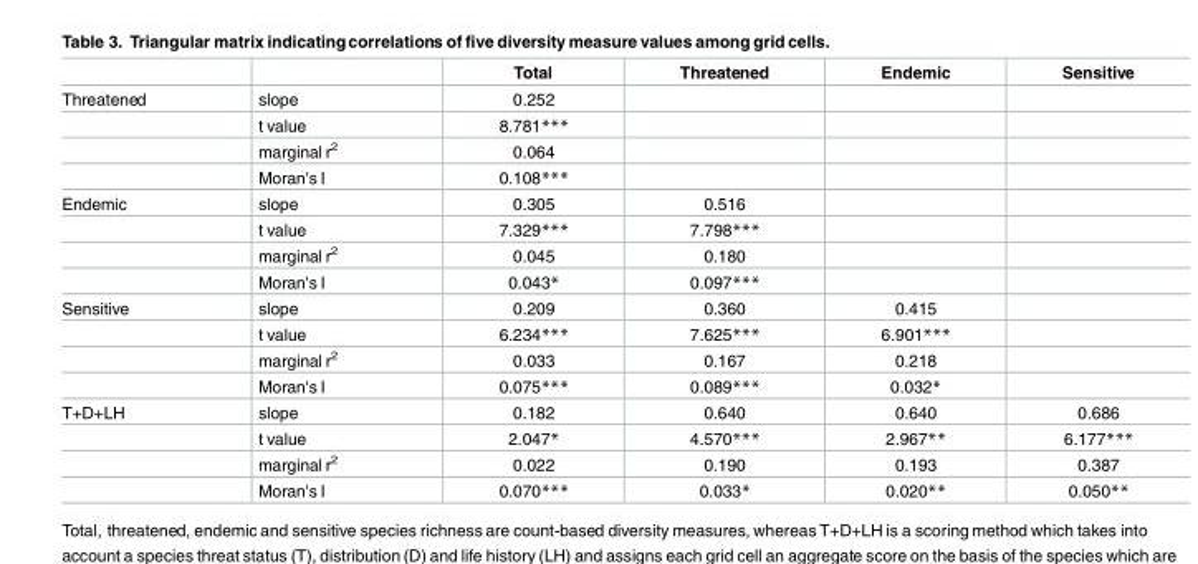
<table><thead><tr><td></td><td></td><td>Total</td><td>Threatened</td><td>Endemic</td><td>Sensitive</td></tr></thead><tbody><tr><td rowspan="4">Threatened</td><td>slope</td><td>0.252</td><td></td><td></td><td></td></tr><tr><td>t value</td><td>8.781***</td><td></td><td></td><td></td></tr><tr><td>marginal r<sup>2</sup></td><td>0.064</td><td></td><td></td><td></td></tr><tr><td>Moran&#x27;s I</td><td>0.108***</td><td></td><td></td><td></td></tr><tr><td rowspan="4">Endemic</td><td>slope</td><td>0.305</td><td>0.516</td><td></td><td></td></tr><tr><td>t value</td><td>7.329***</td><td>7.798***</td><td></td><td></td></tr><tr><td>marginal r<sup>2</sup></td><td>0.045</td><td>0.180</td><td></td><td></td></tr><tr><td>Moran&#x27;s I</td><td>0.043*</td><td>0.097***</td><td></td><td></td></tr><tr><td rowspan="4">Sensitive</td><td>slope</td><td>0.209</td><td>0.360</td><td>0.415</td><td></td></tr><tr><td>t value</td><td>6.234***</td><td>7.625***</td><td>6.901***</td><td></td></tr><tr><td>marginal r<sup>2</sup></td><td>0.033</td><td>0.167</td><td>0.218</td><td></td></tr><tr><td>Moran&#x27;s I</td><td>0.075***</td><td>0.089***</td><td>0.032*</td><td></td></tr><tr><td rowspan="4">T+D+LH</td><td>slope</td><td>0.182</td><td>0.640</td><td>0.640</td><td>0.686</td></tr><tr><td>t value</td><td>2.047*</td><td>4.570***</td><td>2.967**</td><td>6.177***</td></tr><tr><td>marginal r<sup>2</sup></td><td>0.022</td><td>0.190</td><td>0.193</td><td>0.387</td></tr><tr><td>Moran&#x27;s I</td><td>0.070***</td><td>0.033*</td><td>0.020**</td><td>0.050**</td></tr></tbody></table>